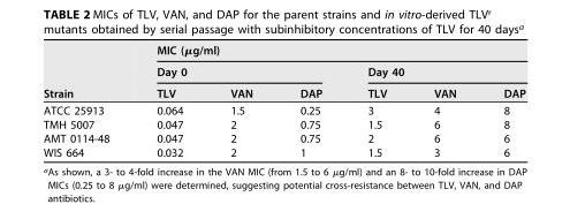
<table><thead><tr><td rowspan="3">Strain</td><td colspan="6">MIC (μg/ml)</td></tr><tr><td colspan="3">Day 0</td><td colspan="3">Day 40</td></tr><tr><td>TLV</td><td>VAN</td><td>DAP</td><td>TLV</td><td>VAN</td><td>DAP</td></tr></thead><tbody><tr><td>ATCC 25913</td><td>0.064</td><td>1.5</td><td>0.25</td><td>3</td><td>4</td><td>8</td></tr><tr><td>TMH 5007</td><td>0.047</td><td>2</td><td>0.75</td><td>1.5</td><td>6</td><td>8</td></tr><tr><td>AMT 0114-48</td><td>0.047</td><td>2</td><td>0.75</td><td>2</td><td>6</td><td>6</td></tr><tr><td>WIS 664</td><td>0.032</td><td>2</td><td>1</td><td>1.5</td><td>3</td><td>6</td></tr></tbody></table>